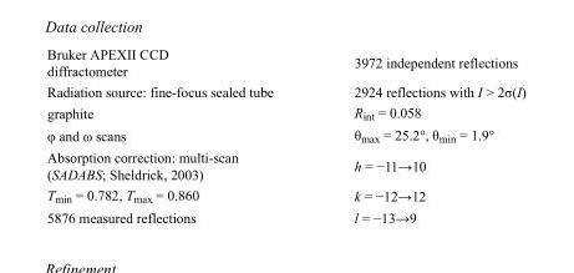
<table><tbody><tr><td>Bruker APEXII CCD diffractometer</td><td>3972 independent reflections</td></tr><tr><td>Radiation source: fine-focus sealed tube</td><td>2924 reflections with I &gt; 2σ(I)</td></tr><tr><td>graphite</td><td>R<sub>int</sub> = 0.058</td></tr><tr><td>φ and ω scans</td><td>θ<sub>max</sub> = 25.2°, θ<sub>min</sub> = 1.9°</td></tr><tr><td>Absorption correction: multi-scan (SADABS; Sheldrick, 2003)</td><td>h = −11→10</td></tr><tr><td>T<sub>min</sub> = 0.782, T<sub>max</sub> = 0.860</td><td>k = −12→12</td></tr><tr><td>5876 measured reflections</td><td>l = −13→9</td></tr></tbody></table>